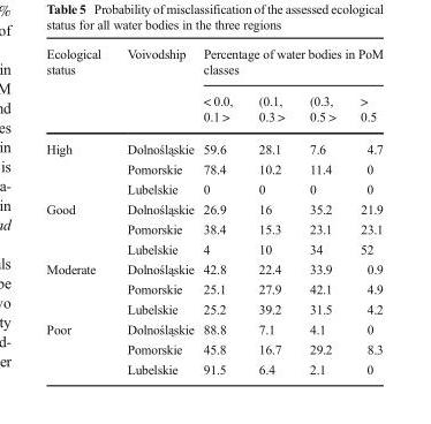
<table><thead><tr><td rowspan="2">Ecological status</td><td rowspan="2">Voivodship</td><td colspan="4">Percentage of water bodies in PoM classes</td></tr><tr><td>&lt; 0.0, 0.1 &gt;</td><td>(0.1, 0.3 &gt;</td><td>(0.3, 0.5 &gt;</td><td>&gt; 0.5</td></tr></thead><tbody><tr><td rowspan="3">High</td><td>Dolnośląskie</td><td>59.6</td><td>28.1</td><td>7.6</td><td>4.7</td></tr><tr><td>Pomorskie</td><td>78.4</td><td>10.2</td><td>11.4</td><td>0</td></tr><tr><td>Lubelskie</td><td>0</td><td>0</td><td>0</td><td>0</td></tr><tr><td rowspan="3">Good</td><td>Dolnośląskie</td><td>26.9</td><td>16</td><td>35.2</td><td>21.9</td></tr><tr><td>Pomorskie</td><td>38.4</td><td>15.3</td><td>23.1</td><td>23.1</td></tr><tr><td>Lubelskie</td><td>4</td><td>10</td><td>34</td><td>52</td></tr><tr><td rowspan="3">Moderate</td><td>Dolnośląskie</td><td>42.8</td><td>22.4</td><td>33.9</td><td>0.9</td></tr><tr><td>Pomorskie</td><td>25.1</td><td>27.9</td><td>42.1</td><td>4.9</td></tr><tr><td>Lubelskie</td><td>25.2</td><td>39.2</td><td>31.5</td><td>4.2</td></tr><tr><td rowspan="3">Poor</td><td>Dolnośląskie</td><td>88.8</td><td>7.1</td><td>4.1</td><td>0</td></tr><tr><td>Pomorskie</td><td>45.8</td><td>16.7</td><td>29.2</td><td>8.3</td></tr><tr><td>Lubelskie</td><td>91.5</td><td>6.4</td><td>2.1</td><td>0</td></tr></tbody></table>